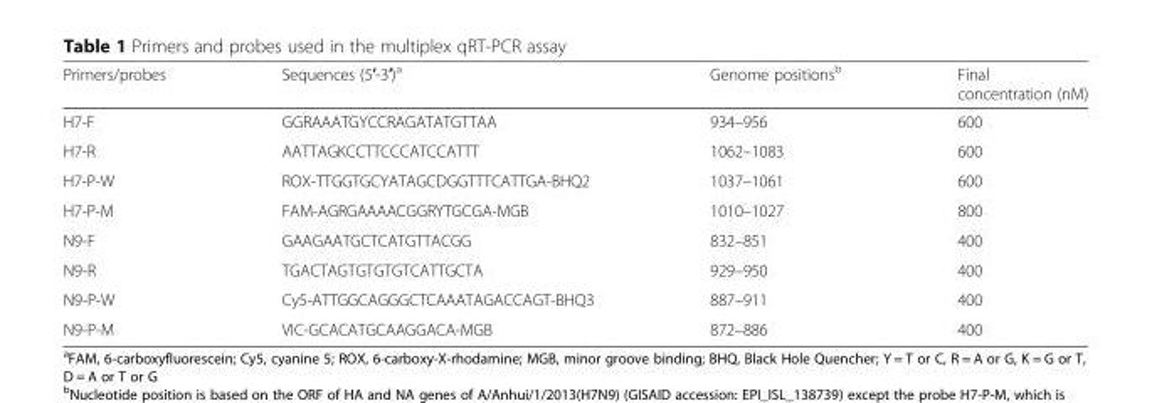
<table><thead><tr><td>Primers/probes</td><td>Sequences (5′-3′)<sup>a</sup></td><td>Genome positions<sup>b</sup></td><td>Final concentration (nM)</td></tr></thead><tbody><tr><td>H7-F</td><td>GGRAAATGYCCRAGATATGTTAA</td><td>934–956</td><td>600</td></tr><tr><td>H7-R</td><td>AATTAGKCCTTCCCATCCATTT</td><td>1062–1083</td><td>600</td></tr><tr><td>H7-P-W</td><td>ROX-TTGGTGCYATAGCDGGTTTCATTGA-BHQ2</td><td>1037–1061</td><td>600</td></tr><tr><td>H7-P-M</td><td>FAM-AGRGAAAACGGRYTGCGA-MGB</td><td>1010–1027</td><td>800</td></tr><tr><td>N9-F</td><td>GAAGAATGCTCATGTTACGG</td><td>832–851</td><td>400</td></tr><tr><td>N9-R</td><td>TGACTAGTGTGTGTCATTGCTA</td><td>929–950</td><td>400</td></tr><tr><td>N9-P-W</td><td>Cy5-ATTGGCAGGGCTCAAATAGACCAGT-BHQ3</td><td>887–911</td><td>400</td></tr><tr><td>N9-P-M</td><td>VIC-GCACATGCAAGGACA-MGB</td><td>872–886</td><td>400</td></tr></tbody></table>